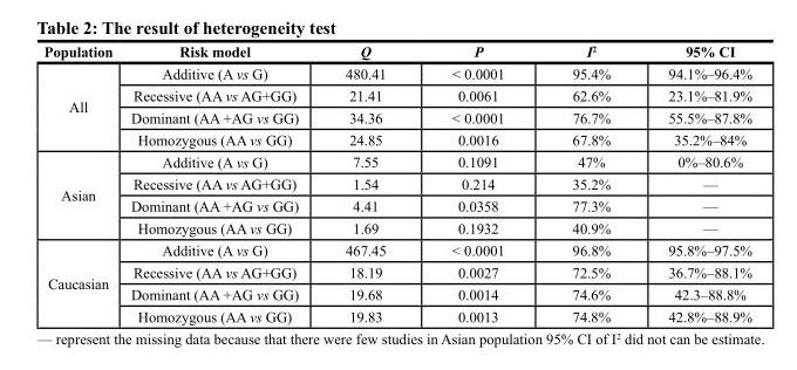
<table><thead><tr><td>Population</td><td>risk model</td><td>Q</td><td>P</td><td>I<sup>2</sup></td><td>95% cI</td></tr></thead><tbody><tr><td rowspan="4">All</td><td>Additive (A vs G)</td><td>480.41</td><td>&lt; 0.0001</td><td>95.4%</td><td>94.1%–96.4%</td></tr><tr><td>Recessive (AA vs AG+GG)</td><td>21.41</td><td>0.0061</td><td>62.6%</td><td>23.1%–81.9%</td></tr><tr><td>Dominant (AA +AG vs GG)</td><td>34.36</td><td>&lt; 0.0001</td><td>76.7%</td><td>55.5%–87.8%</td></tr><tr><td>Homozygous (AA vs GG)</td><td>24.85</td><td>0.0016</td><td>67.8%</td><td>35.2%–84%</td></tr><tr><td rowspan="4">Asian</td><td>Additive (A vs G)</td><td>7.55</td><td>0.1091</td><td>47%</td><td>0%–80.6%</td></tr><tr><td>Recessive (AA vs AG+GG)</td><td>1.54</td><td>0.214</td><td>35.2%</td><td>—</td></tr><tr><td>Dominant (AA +AG vs GG)</td><td>4.41</td><td>0.0358</td><td>77.3%</td><td>—</td></tr><tr><td>Homozygous (AA vs GG)</td><td>1.69</td><td>0.1932</td><td>40.9%</td><td>—</td></tr><tr><td rowspan="4">Caucasian</td><td>Additive (A vs G)</td><td>467.45</td><td>&lt; 0.0001</td><td>96.8%</td><td>95.8%–97.5%</td></tr><tr><td>Recessive (AA vs AG+GG)</td><td>18.19</td><td>0.0027</td><td>72.5%</td><td>36.7%–88.1%</td></tr><tr><td>Dominant (AA +AG vs GG)</td><td>19.68</td><td>0.0014</td><td>74.6%</td><td>42.3–88.8%</td></tr><tr><td>Homozygous (AA vs GG)</td><td>19.83</td><td>0.0013</td><td>74.8%</td><td>42.8%–88.9%</td></tr></tbody></table>